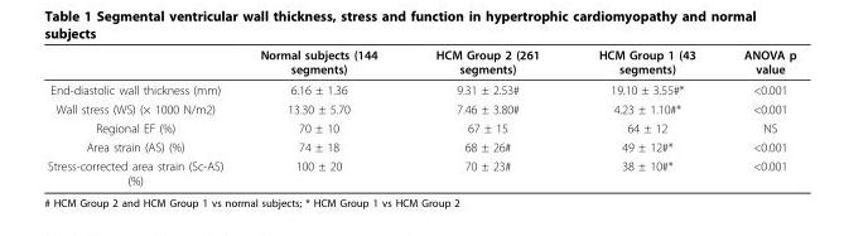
<table><thead><tr><td></td><td>Normal subjects (144 segments)</td><td>HCM Group 2 (261 segments)</td><td>HCM Group 1 (43 segments)</td><td>ANOVA p value</td></tr></thead><tbody><tr><td>End-diastolic wall thickness (mm)</td><td>6.16 ± 1.36</td><td>9.31 ± 2.53#</td><td>19.10 ± 3.55#*</td><td>&lt;0.001</td></tr><tr><td>Wall stress (WS) (× 1000 N/m2)</td><td>13.30 ± 5.70</td><td>7.46 ± 3.80#</td><td>4.23 ± 1.10#*</td><td>&lt;0.001</td></tr><tr><td>Regional EF (%)</td><td>70 ± 10</td><td>67 ± 15</td><td>64 ± 12</td><td>NS</td></tr><tr><td>Area strain (AS) (%)</td><td>74 ± 18</td><td>68 ± 26#</td><td>49 ± 12#*</td><td>&lt;0.001</td></tr><tr><td>Stress-corrected area strain (Sc-AS) (%)</td><td>100 ± 20</td><td>70 ± 23#</td><td>38 ± 10#*</td><td>&lt;0.001</td></tr></tbody></table>